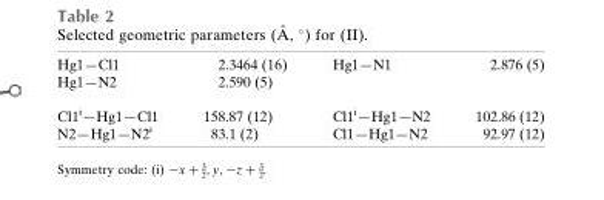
<table><tbody><tr><td>Hg1—Cl1</td><td>2.3464 (16)</td><td>Hg1—N1</td><td>2.876 (5)</td></tr><tr><td>Hg1—N2</td><td>2.590 (5)</td><td></td><td></td></tr><tr><td>Cl1<sup>i</sup>—Hg1—Cl1</td><td>158.87 (12)</td><td>Cl1<sup>i</sup>—Hg1—N2</td><td>102.86 (12)</td></tr><tr><td>N2—Hg1—N2<sup>i</sup></td><td>83.1 (2)</td><td>Cl1—Hg1—N2</td><td>92.97 (12)</td></tr></tbody></table>